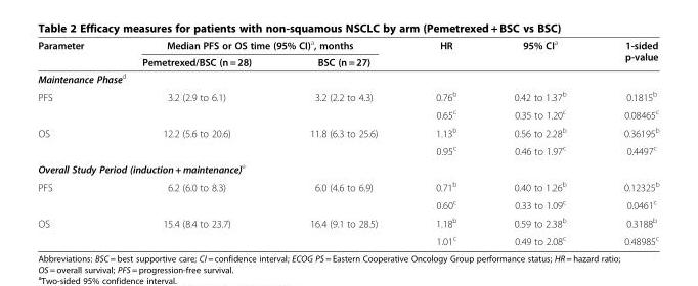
<table><thead><tr><td rowspan="2">Parameter</td><td colspan="2">Median PFS or OS time (95% CI)<sup>a</sup>, months</td><td rowspan="2">HR</td><td rowspan="2">95% CI<sup>a</sup></td><td rowspan="2">1-sided p-value</td></tr><tr><td>Pemetrexed/BSC (n = 28)</td><td>BSC (n = 27)</td></tr></thead><tbody><tr><td colspan="6">Maintenance Phase<sup>d</sup></td></tr><tr><td rowspan="2">PFS</td><td rowspan="2">3.2 (2.9 to 6.1)</td><td rowspan="2">3.2 (2.2 to 4.3)</td><td>0.76<sup>b</sup></td><td>0.42 to 1.37<sup>b</sup></td><td>0.1815<sup>b</sup></td></tr><tr><td>0.65<sup>c</sup></td><td>0.35 to 1.20<sup>c</sup></td><td>0.08465<sup>c</sup></td></tr><tr><td rowspan="2">OS</td><td rowspan="2">12.2 (5.6 to 20.6)</td><td rowspan="2">11.8 (6.3 to 25.6)</td><td>1.13<sup>b</sup></td><td>0.56 to 2.28<sup>b</sup></td><td>0.36195<sup>b</sup></td></tr><tr><td>0.95<sup>c</sup></td><td>0.46 to 1.97<sup>c</sup></td><td>0.4497<sup>c</sup></td></tr><tr><td colspan="6">Overall Study Period (induction + maintenance)<sup>e</sup></td></tr><tr><td rowspan="2">PFS</td><td rowspan="2">6.2 (6.0 to 8.3)</td><td rowspan="2">6.0 (4.6 to 6.9)</td><td>0.71<sup>b</sup></td><td>0.40 to 1.26<sup>b</sup></td><td>0.12325<sup>b</sup></td></tr><tr><td>0.60<sup>c</sup></td><td>0.33 to 1.09<sup>c</sup></td><td>0.0461<sup>c</sup></td></tr><tr><td rowspan="2">OS</td><td>15.4 (8.4 to 23.7)</td><td>16.4 (9.1 to 28.5)</td><td>1.18<sup>b</sup></td><td>0.59 to 2.38<sup>b</sup></td><td>0.3188<sup>b</sup></td></tr><tr><td></td><td></td><td>1.01<sup>c</sup></td><td>0.49 to 2.08<sup>c</sup></td><td>0.48985<sup>c</sup></td></tr></tbody></table>